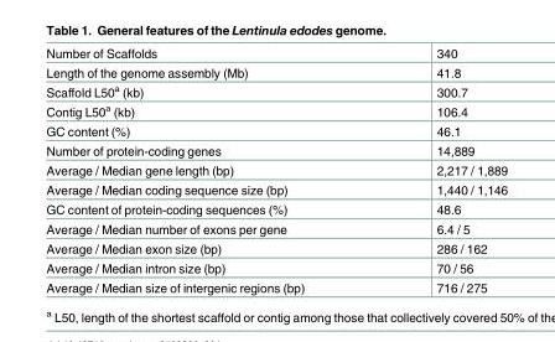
<table><tbody><tr><td>Number of Scaffolds</td><td>340</td></tr><tr><td>Length of the genome assembly (Mb)</td><td>41.8</td></tr><tr><td>Scaffold L50<sup>a</sup> (kb)</td><td>300.7</td></tr><tr><td>Contig L50<sup>a</sup> (kb)</td><td>106.4</td></tr><tr><td>GC content (%)</td><td>46.1</td></tr><tr><td>Number of protein-coding genes</td><td>14,889</td></tr><tr><td>Average / Median gene length (bp)</td><td>2,217 / 1,889</td></tr><tr><td>Average / Median coding sequence size (bp)</td><td>1,440 / 1,146</td></tr><tr><td>GC content of protein-coding sequences (%)</td><td>48.6</td></tr><tr><td>Average / Median number of exons per gene</td><td>6.4 / 5</td></tr><tr><td>Average / Median exon size (bp)</td><td>286 / 162</td></tr><tr><td>Average / Median intron size (bp)</td><td>70 / 56</td></tr><tr><td>Average / Median size of intergenic regions (bp)</td><td>716 / 275</td></tr></tbody></table>